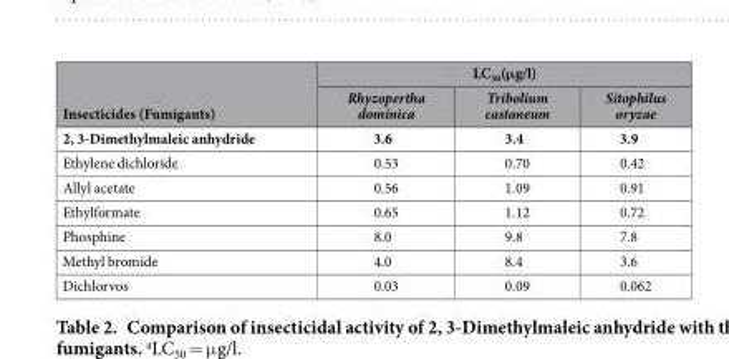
<table><thead><tr><td rowspan="2">Insecticides (Fumigants)</td><td colspan="3">LC<sub>50</sub>(μg/l)</td></tr><tr><td>Rhyzopertha dominica</td><td>Tribolium castaneum</td><td>Sitophilus oryzae</td></tr></thead><tbody><tr><td>2, 3-Dimethylmaleic anhydride</td><td>3.6</td><td>3.4</td><td>3.9</td></tr><tr><td>Ethylene dichloride</td><td>0.53</td><td>0.70</td><td>0.42</td></tr><tr><td>Allyl acetate</td><td>0.56</td><td>1.09</td><td>0.91</td></tr><tr><td>Ethylformate</td><td>0.65</td><td>1.12</td><td>0.72</td></tr><tr><td>Phosphine</td><td>8.0</td><td>9.8</td><td>7.8</td></tr><tr><td>Methyl bromide</td><td>4.0</td><td>8.4</td><td>3.6</td></tr><tr><td>Dichlorvos</td><td>0.03</td><td>0.09</td><td>0.062</td></tr></tbody></table>